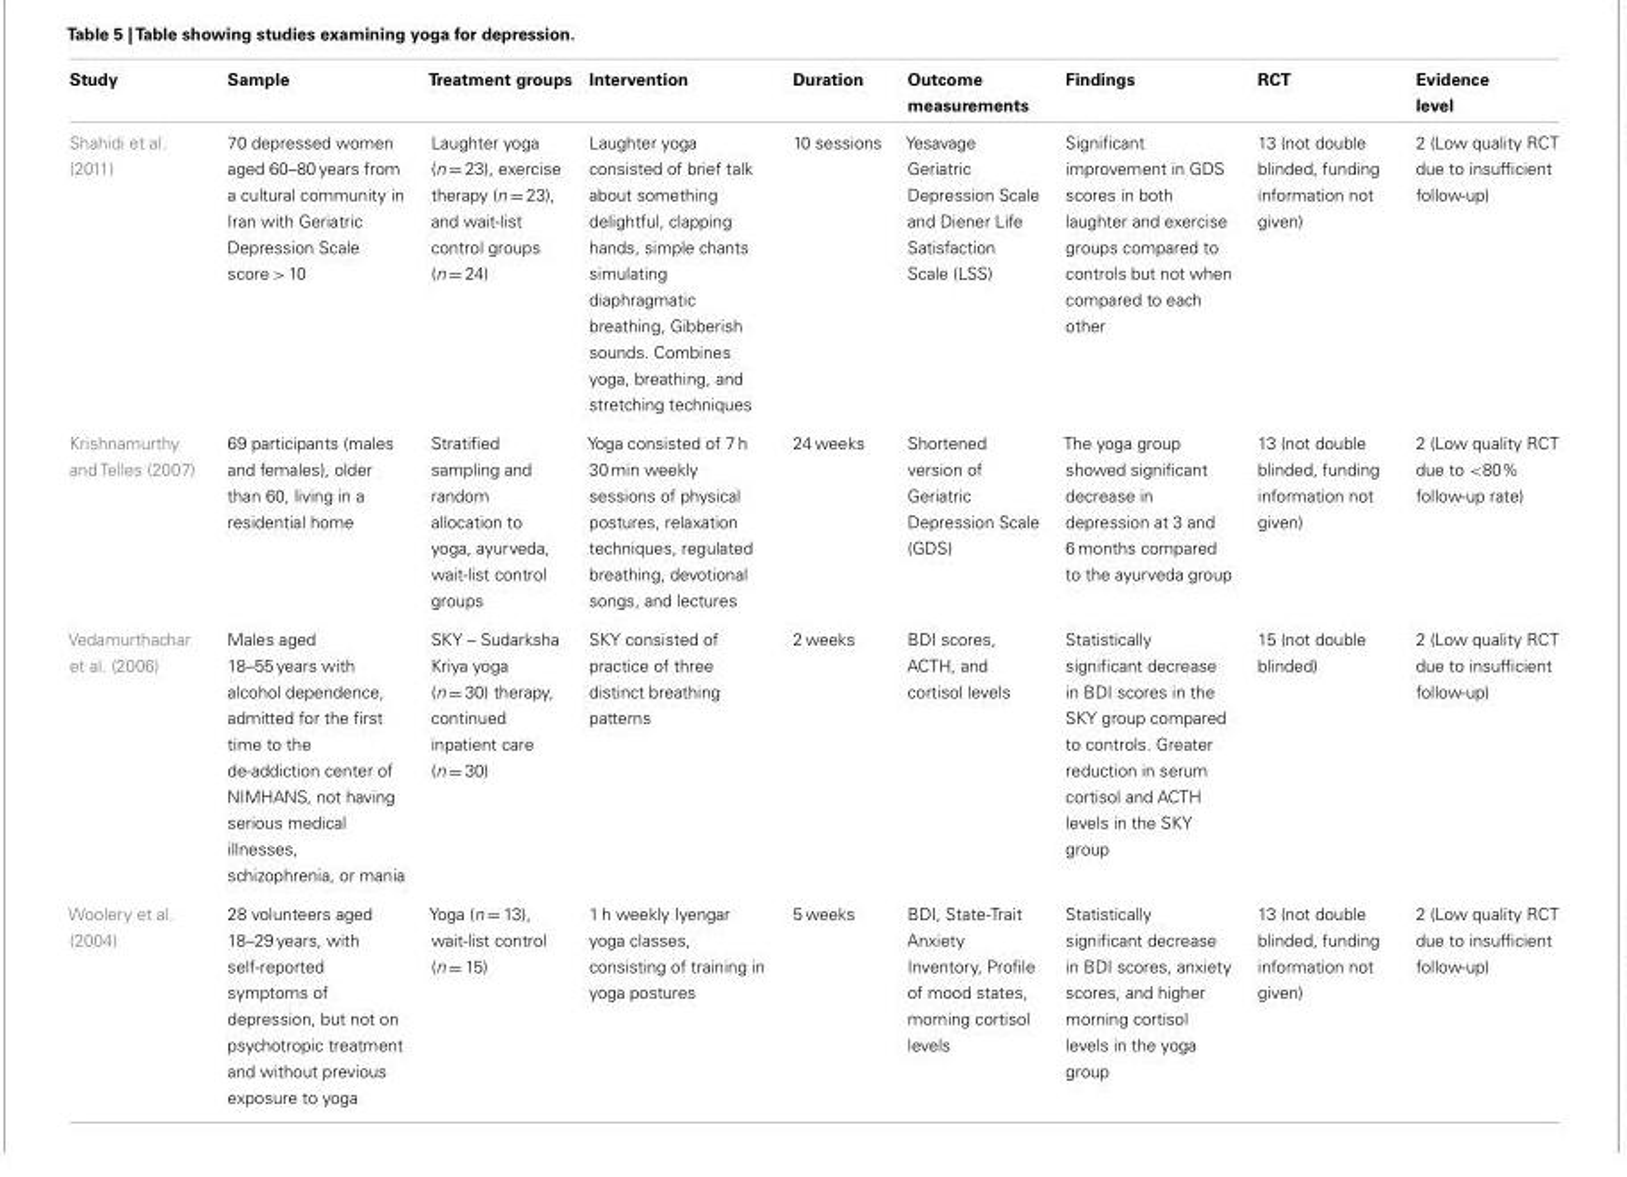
<table><thead><tr><td>Study</td><td>Sample</td><td>Treatment groups</td><td>Intervention</td><td>Duration</td><td>Outcome measurements</td><td>Findings</td><td>RCT</td><td>Evidence level</td></tr></thead><tbody><tr><td>Shahidi et al. (2011)</td><td>70 depressed women aged 60–80 years from a cultural community in Iran with Geriatric Depression Scale score &gt; 10</td><td>Laughter yoga (n = 23), exercise therapy (n = 23), and wait-list control groups (n = 24)</td><td>Laughter yoga consisted of brief talk about something delightful, clapping hands, simple chants simulating diaphragmatic breathing, Gibberish sounds. Combines yoga, breathing, and stretching techniques</td><td>10 sessions</td><td>Yesavage Geriatric Depression Scale and Diener Life Satisfaction Scale (LSS)</td><td>Significant improvement in GDS scores in both laughter and exercise groups compared to controls but not when compared to each other</td><td>13 (not double blinded, funding information not given)</td><td>2 (Low quality RCT due to insufficient follow-up)</td></tr><tr><td>Krishnamurthy and Telles (2007)</td><td>69 participants (males and females), older than 60, living in a residential home</td><td>Stratified sampling and random allocation to yoga, ayurveda, wait-list control groups</td><td>Yoga consisted of 7 h 30 min weekly sessions of physical postures, relaxation techniques, regulated breathing, devotional songs, and lectures</td><td>24 weeks</td><td>Shortened version of Geriatric Depression Scale (GDS)</td><td>The yoga group showed significant decrease in depression at 3 and 6 months compared to the ayurveda group</td><td>13 (not double blinded, funding information not given)</td><td>2 (Low quality RCT due to &lt;80% follow-up rate)</td></tr><tr><td>Vedamurthachar et al. (2006)</td><td>Males aged 18–55 years with alcohol dependence, admitted for the first time to the de-addiction center of NIMHANS, not having serious medical illnesses, schizophrenia, or mania</td><td>SKY – Sudarksha Kriya yoga (n = 30) therapy, continued inpatient care (n = 30)</td><td>SKY consisted of practice of three distinct breathing patterns</td><td>2 weeks</td><td>BDI scores, ACTH, and cortisol levels</td><td>Statistically significant decrease in BDI scores in the SKY group compared to controls. Greater reduction in serum cortisol and ACTH levels in the SKY group</td><td>15 (not double blinded)</td><td>2 (Low quality RCT due to insufficient follow-up)</td></tr><tr><td>Woolery et al. (2004)</td><td>28 volunteers aged 18–29 years, with self-reported symptoms of depression, but not on psychotropic treatment and without previous exposure to yoga</td><td>Yoga (n = 13), wait-list control (n = 15)</td><td>1 h weekly Iyengar yoga classes, consisting of training in yoga postures</td><td>5 weeks</td><td>BDI, State-Trait Anxiety Inventory, Profile of mood states, morning cortisol levels</td><td>Statistically significant decrease in BDI scores, anxiety scores, and higher morning cortisol levels in the yoga group</td><td>13 (not double blinded, funding information not given)</td><td>2 (Low quality RCT due to insufficient follow-up)</td></tr></tbody></table>